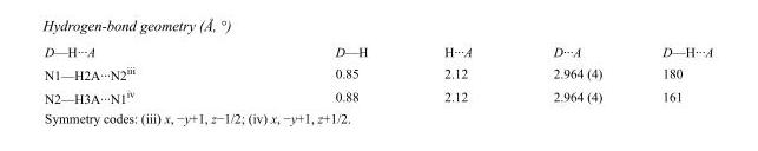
<table><tbody><tr><td>D—H···A</td><td>D—H</td><td>H···A</td><td>D···A</td><td>D—H···A</td></tr><tr><td>N1—H2A···N2<sup>iii</sup></td><td>0.85</td><td>2.12</td><td>2.964 (4)</td><td>180</td></tr><tr><td>N2—H3A···N1<sup>iv</sup></td><td>0.88</td><td>2.12</td><td>2.964 (4)</td><td>161</td></tr></tbody></table>